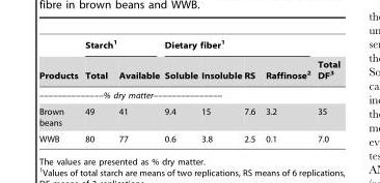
<table><thead><tr><td rowspan="2">Products</td><td colspan="2">Starch<sup>1</sup></td><td colspan="4">Dietary fiber<sup>1</sup></td><td rowspan="2">Total DF<sup>3</sup></td></tr><tr><td>Total</td><td>Available</td><td>Soluble</td><td>Insoluble</td><td>RS</td><td>Raffinose<sup>2</sup></td></tr></thead><tbody><tr><td colspan="8">––––––––––––––% dry matter–––––––––––––––</td></tr><tr><td>Brown beans</td><td>49</td><td>41</td><td>9.4</td><td>15</td><td>7.6</td><td>3.2</td><td>35</td></tr><tr><td>WWB</td><td>80</td><td>77</td><td>0.6</td><td>3.8</td><td>2.5</td><td>0.1</td><td>7.0</td></tr></tbody></table>